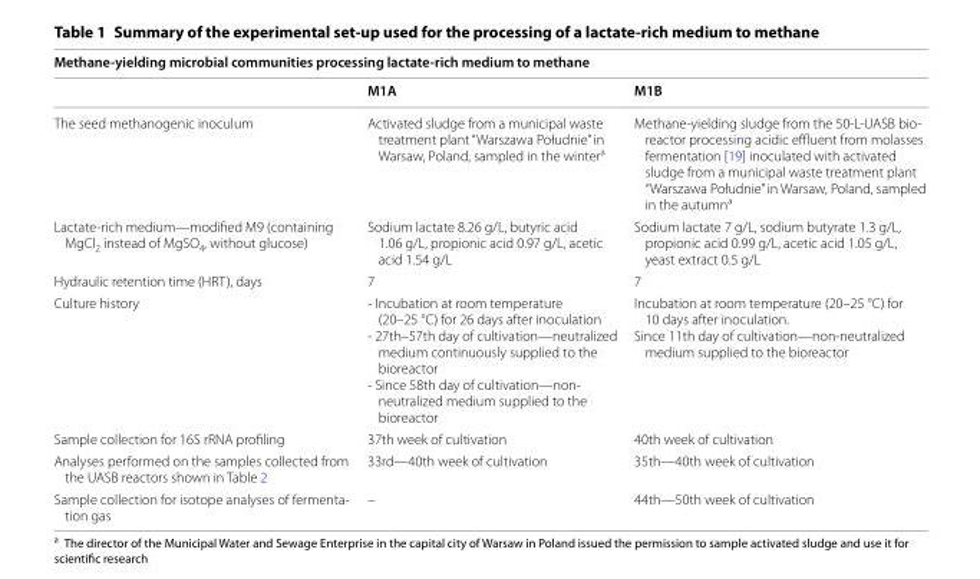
<table><thead><tr><td colspan="3">Methane‑yielding microbial communities processing lactate‑rich medium to methane</td></tr><tr><td></td><td>M1A</td><td>M1B</td></tr></thead><tbody><tr><td>The seed methanogenic inoculum</td><td>Activated sludge from a municipal waste treatment plant “Warszawa Południe” in Warsaw, Poland, sampled in the winter<sup>a</sup></td><td>Methane‑yielding sludge from the 50‑L‑UASB bio‑ reactor processing acidic effluent from molasses fermentation [19] inoculated with activated sludge from a municipal waste treatment plant “Warszawa Południe” in Warsaw, Poland, sampled in the autumna</td></tr><tr><td>Lactate‑rich medium—modified M9 (containing MgCl<sub>2</sub> instead of MgSO<sub>4</sub>, without glucose)</td><td>Sodium lactate 8.26 g/L, butyric acid 1.06 g/L, propionic acid 0.97 g/L, acetic acid 1.54 g/L</td><td>Sodium lactate 7 g/L, sodium butyrate 1.3 g/L, propionic acid 0.99 g/L, acetic acid 1.05 g/L, yeast extract 0.5 g/L</td></tr><tr><td>Hydraulic retention time (HRT), days</td><td>7</td><td>7</td></tr><tr><td>Culture history</td><td>‑ Incubation at room temperature (20–25 °C) for 26 days after inoculation ‑ 27th–57th day of cultivation—neutralized medium continuously supplied to the bioreactor ‑ Since 58th day of cultivation—non‑ neutralized medium supplied to the bioreactor</td><td>Incubation at room temperature (20–25 °C) for 10 days after inoculation. Since 11th day of cultivation—non‑neutralized medium supplied to the bioreactor</td></tr><tr><td>Sample collection for 16S rRNA profiling</td><td>37th week of cultivation</td><td>40th week of cultivation</td></tr><tr><td>Analyses performed on the samples collected from the UASB reactors shown in Table 2</td><td>33rd—40th week of cultivation</td><td>35th—40th week of cultivation</td></tr><tr><td>Sample collection for isotope analyses of fermenta‑ tion gas</td><td>–</td><td>44th—50th week of cultivation</td></tr></tbody></table>